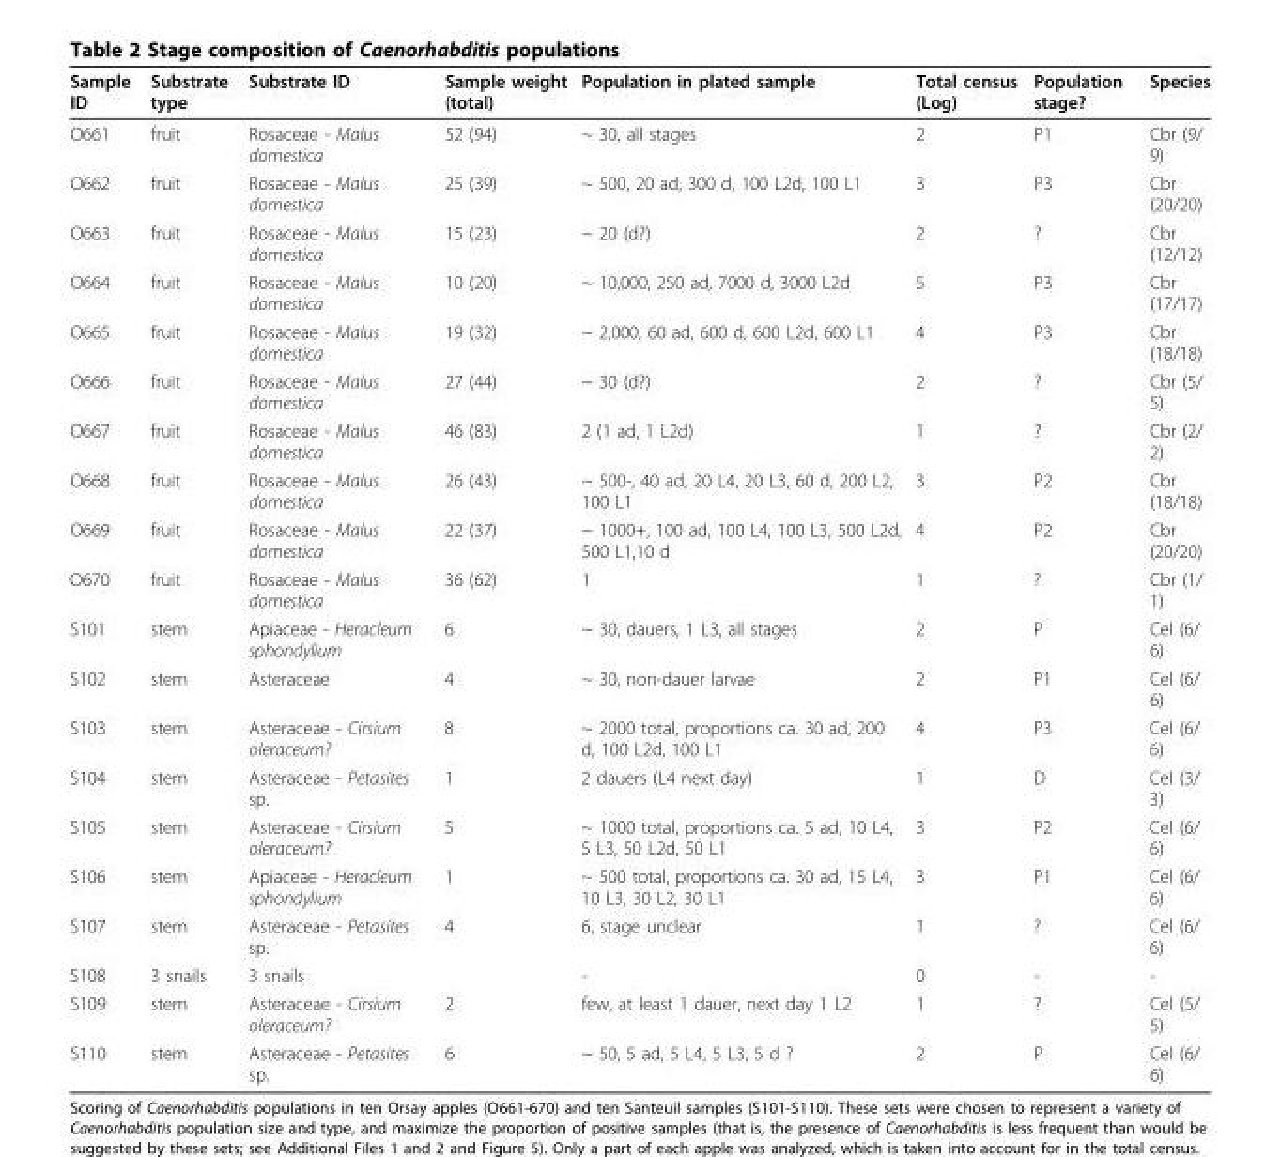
<table><thead><tr><td>Sample ID</td><td>Substrate type</td><td>Substrate ID</td><td>Sample weight (total)</td><td>Population in plated sample</td><td>Total census (Log)</td><td>Population stage?</td><td>Species</td></tr></thead><tbody><tr><td>O661</td><td>fruit</td><td>Rosaceae - Malus domestica</td><td>52 (94)</td><td>~ 30, all stages</td><td>2</td><td>P1</td><td>Cbr (9/ 9)</td></tr><tr><td>O662</td><td>fruit</td><td>Rosaceae - Malus domestica</td><td>25 (39)</td><td>~ 500, 20 ad, 300 d, 100 L2d, 100 L1</td><td>3</td><td>P3</td><td>Cbr (20/20)</td></tr><tr><td>O663</td><td>fruit</td><td>Rosaceae - Malus domestica</td><td>15 (23)</td><td>~ 20 (d?)</td><td>2</td><td>?</td><td>Cbr (12/12)</td></tr><tr><td>O664</td><td>fruit</td><td>Rosaceae - Malus domestica</td><td>10 (20)</td><td>~ 10,000, 250 ad, 7000 d, 3000 L2d</td><td>5</td><td>P3</td><td>Cbr (17/17)</td></tr><tr><td>O665</td><td>fruit</td><td>Rosaceae - Malus domestica</td><td>19 (32)</td><td>~ 2,000, 60 ad, 600 d, 600 L2d, 600 L1</td><td>4</td><td>P3</td><td>Cbr (18/18)</td></tr><tr><td>O666</td><td>fruit</td><td>Rosaceae - Malus domestica</td><td>27 (44)</td><td>~ 30 (d?)</td><td>2</td><td>?</td><td>Cbr (5/ 5)</td></tr><tr><td>O667</td><td>fruit</td><td>Rosaceae - Malus domestica</td><td>46 (83)</td><td>2 (1 ad, 1 L2d)</td><td>1</td><td>?</td><td>Cbr (2/ 2)</td></tr><tr><td>O668</td><td>fruit</td><td>Rosaceae - Malus domestica</td><td>26 (43)</td><td>~ 500-, 40 ad, 20 L4, 20 L3, 60 d, 200 L2, 100 L1</td><td>3</td><td>P2</td><td>Cbr (18/18)</td></tr><tr><td>O669</td><td>fruit</td><td>Rosaceae - Malus domestica</td><td>22 (37)</td><td>~ 1000+, 100 ad, 100 L4, 100 L3, 500 L2d, 500 L1,10 d</td><td>4</td><td>P2</td><td>Cbr (20/20)</td></tr><tr><td>O670</td><td>fruit</td><td>Rosaceae - Malus domestica</td><td>36 (62)</td><td>1</td><td>1</td><td>?</td><td>Cbr (1/ 1)</td></tr><tr><td>S101</td><td>stem</td><td>Apiaceae - Heracleum sphondylium</td><td>6</td><td>~ 30, dauers, 1 L3, all stages</td><td>2</td><td>P</td><td>Cel (6/ 6)</td></tr><tr><td>S102</td><td>stem</td><td>Asteraceae</td><td>4</td><td>~ 30, non-dauer larvae</td><td>2</td><td>P1</td><td>Cel (6/ 6)</td></tr><tr><td>S103</td><td>stem</td><td>Asteraceae - Cirsium oleraceum?</td><td>8</td><td>~ 2000 total, proportions ca. 30 ad, 200 d, 100 L2d, 100 L1</td><td>4</td><td>P3</td><td>Cel (6/ 6)</td></tr><tr><td>S104</td><td>stem</td><td>Asteraceae - Petasites sp.</td><td>1</td><td>2 dauers (L4 next day)</td><td>1</td><td>D</td><td>Cel (3/ 3)</td></tr><tr><td>S105</td><td>stem</td><td>Asteraceae - Cirsium oleraceum?</td><td>5</td><td>~ 1000 total, proportions ca. 5 ad, 10 L4, 5 L3, 50 L2d, 50 L1</td><td>3</td><td>P2</td><td>Cel (6/ 6)</td></tr><tr><td>S106</td><td>stem</td><td>Apiaceae - Heracleum sphondylium</td><td>1</td><td>~ 500 total, proportions ca. 30 ad, 15 L4, 10 L3, 30 L2, 30 L1</td><td>3</td><td>P1</td><td>Cel (6/ 6)</td></tr><tr><td>S107</td><td>stem</td><td>Asteraceae - Petasites sp.</td><td>4</td><td>6, stage unclear</td><td>1</td><td>?</td><td>Cel (6/ 6)</td></tr><tr><td>S108</td><td>3 snails</td><td>3 snails</td><td></td><td>-</td><td>0</td><td>-</td><td>-</td></tr><tr><td>S109</td><td>stem</td><td>Asteraceae - Cirsium oleraceum?</td><td>2</td><td>few, at least 1 dauer, next day 1 L2</td><td>1</td><td>?</td><td>Cel (5/ 5)</td></tr><tr><td>S110</td><td>stem</td><td>Asteraceae - Petasites sp.</td><td>6</td><td>~ 50, 5 ad, 5 L4, 5 L3, 5 d ?</td><td>2</td><td>P</td><td>Cel (6/ 6)</td></tr></tbody></table>